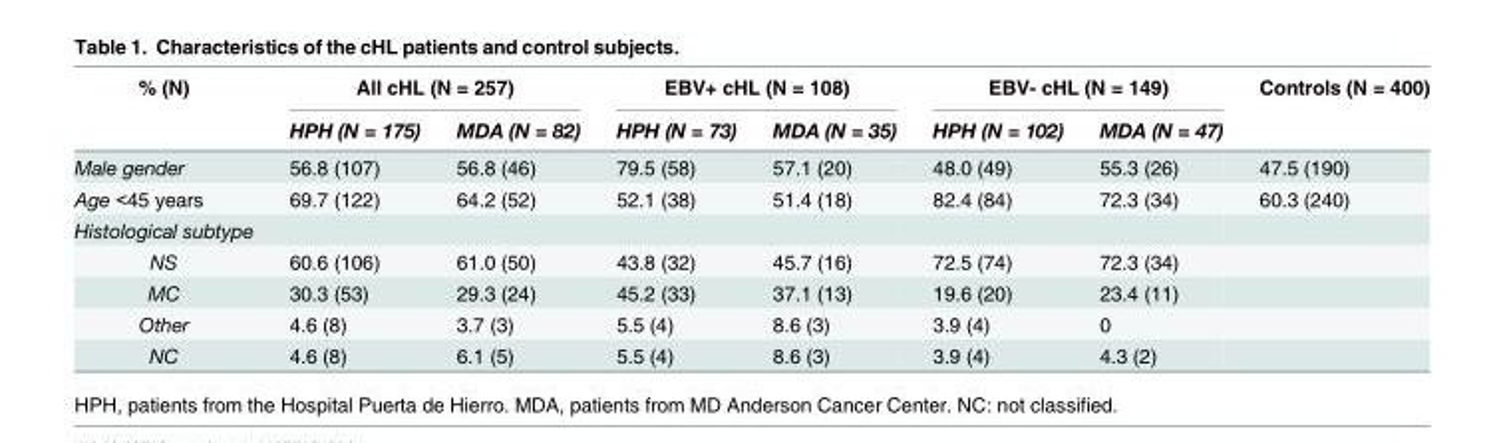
<table><thead><tr><td rowspan="2">% (N)</td><td colspan="2">All cHL (N = 257)</td><td colspan="2">EBV+ cHL (N = 108)</td><td colspan="2">EBV- cHL (N = 149)</td><td rowspan="2">Controls (N = 400)</td></tr><tr><td>HPH (N = 175)</td><td>MDA (N = 82)</td><td>HPH (N = 73)</td><td>MDA (N = 35)</td><td>HPH (N = 102)</td><td>MDA (N = 47)</td></tr></thead><tbody><tr><td>Male gender</td><td>56.8 (107)</td><td>56.8 (46)</td><td>79.5 (58)</td><td>57.1 (20)</td><td>48.0 (49)</td><td>55.3 (26)</td><td>47.5 (190)</td></tr><tr><td>Age &lt;45 years</td><td>69.7 (122)</td><td>64.2 (52)</td><td>52.1 (38)</td><td>51.4 (18)</td><td>82.4 (84)</td><td>72.3 (34)</td><td>60.3 (240)</td></tr><tr><td colspan="8">Histological subtype</td></tr><tr><td>NS</td><td>60.6 (106)</td><td>61.0 (50)</td><td>43.8 (32)</td><td>45.7 (16)</td><td>72.5 (74)</td><td>72.3 (34)</td><td></td></tr><tr><td>MC</td><td>30.3 (53)</td><td>29.3 (24)</td><td>45.2 (33)</td><td>37.1 (13)</td><td>19.6 (20)</td><td>23.4 (11)</td><td></td></tr><tr><td>Other</td><td>4.6 (8)</td><td>3.7 (3)</td><td>5.5 (4)</td><td>8.6 (3)</td><td>3.9 (4)</td><td>0</td><td></td></tr><tr><td>NC</td><td>4.6 (8)</td><td>6.1 (5)</td><td>5.5 (4)</td><td>8.6 (3)</td><td>3.9 (4)</td><td>4.3 (2)</td><td></td></tr></tbody></table>